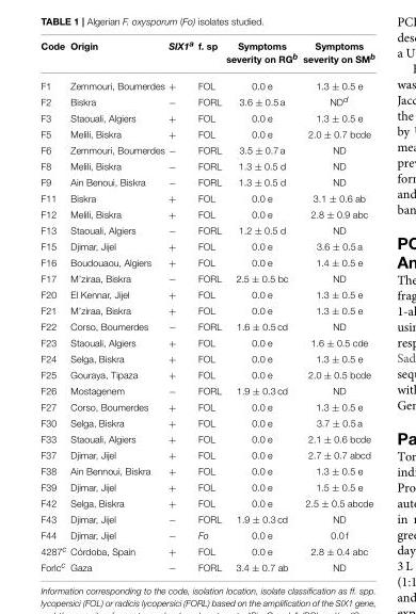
<table><thead><tr><td>Code</td><td>Origin</td><td>SIX1<sup>a</sup></td><td>f. sp</td><td>Symptoms severity on RG<sup>b</sup></td><td>Symptoms severity on SM<sup>b</sup></td></tr></thead><tbody><tr><td>F1</td><td>Zemmouri, Boumerdes</td><td>+</td><td>FOL</td><td>0.0 e</td><td>1.3 ± 0.5 e</td></tr><tr><td>F2</td><td>Biskra</td><td>−</td><td>FORL</td><td>3.6 ± 0.5 a</td><td>ND<sup>d</sup></td></tr><tr><td>F3</td><td>Staouali, Algiers</td><td>+</td><td>FOL</td><td>0.0 e</td><td>1.3 ± 0.5 e</td></tr><tr><td>F5</td><td>Melili, Biskra</td><td>+</td><td>FOL</td><td>0.0 e</td><td>2.0 ± 0.7 bcde</td></tr><tr><td>F6</td><td>Zemmouri, Boumerdes</td><td>−</td><td>FORL</td><td>3.5 ± 0.7 a</td><td>ND</td></tr><tr><td>F8</td><td>Melili, Biskra</td><td>−</td><td>FORL</td><td>1.3 ± 0.5 d</td><td>ND</td></tr><tr><td>F9</td><td>Ain Benoui, Biskra</td><td>−</td><td>FORL</td><td>1.3 ± 0.5 d</td><td>ND</td></tr><tr><td>F11</td><td>Biskra</td><td>+</td><td>FOL</td><td>0.0 e</td><td>3.1 ± 0.6 ab</td></tr><tr><td>F12</td><td>Melili, Biskra</td><td>+</td><td>FOL</td><td>0.0 e</td><td>2.8 ± 0.9 abc</td></tr><tr><td>F13</td><td>Staouali, Algiers</td><td>−</td><td>FORL</td><td>1.2 ± 0.5 d</td><td>ND</td></tr><tr><td>F15</td><td>Djimar, Jijel</td><td>+</td><td>FOL</td><td>0.0 e</td><td>3.6 ± 0.5 a</td></tr><tr><td>F16</td><td>Boudouaou, Algiers</td><td>+</td><td>FOL</td><td>0.0 e</td><td>1.4 ± 0.5 e</td></tr><tr><td>F17</td><td>M’ziraa, Biskra</td><td>−</td><td>FORL</td><td>2.5 ± 0.5 bc</td><td>ND</td></tr><tr><td>F20</td><td>El Kennar, Jijel</td><td>+</td><td>FOL</td><td>0.0 e</td><td>1.3 ± 0.5 e</td></tr><tr><td>F21</td><td>M’ziraa, Biskra</td><td>+</td><td>FOL</td><td>0.0 e</td><td>1.3 ± 0.5 e</td></tr><tr><td>F22</td><td>Corso, Boumerdes</td><td>−</td><td>FORL</td><td>1.6 ± 0.5 cd</td><td>ND</td></tr><tr><td>F23</td><td>Staouali, Algiers</td><td>+</td><td>FOL</td><td>0.0 e</td><td>1.6 ± 0.5 cde</td></tr><tr><td>F24</td><td>Selga, Biskra</td><td>+</td><td>FOL</td><td>0.0 e</td><td>1.3 ± 0.5 e</td></tr><tr><td>F25</td><td>Gouraya, Tipaza</td><td>+</td><td>FOL</td><td>0.0 e</td><td>2.0 ± 0.5 bcde</td></tr><tr><td>F26</td><td>Mostagenem</td><td>−</td><td>FORL</td><td>1.9 ± 0.3 cd</td><td>ND</td></tr><tr><td>F27</td><td>Corso, Boumerdes</td><td>+</td><td>FOL</td><td>0.0 e</td><td>1.3 ± 0.5 e</td></tr><tr><td>F30</td><td>Selga, Biskra</td><td>+</td><td>FOL</td><td>0.0 e</td><td>3.7 ± 0.5 a</td></tr><tr><td>F33</td><td>Staouali, Algiers</td><td>+</td><td>FOL</td><td>0.0 e</td><td>2.1 ± 0.6 bcde</td></tr><tr><td>F37</td><td>Djimar, Jijel</td><td>+</td><td>FOL</td><td>0.0 e</td><td>2.7 ± 0.7 abcd</td></tr><tr><td>F38</td><td>Ain Bennoui, Biskra</td><td>+</td><td>FOL</td><td>0.0 e</td><td>1.3 ± 0.5 e</td></tr><tr><td>F39</td><td>Djimar, Jijel</td><td>+</td><td>FOL</td><td>0.0 e</td><td>1.5 ± 0.5 e</td></tr><tr><td>F42</td><td>Selga, Biskra</td><td>+</td><td>FOL</td><td>0.0 e</td><td>2.5 ± 0.5 abcde</td></tr><tr><td>F43</td><td>Djimar, Jijel</td><td>−</td><td>FORL</td><td>1.9 ± 0.3 cd</td><td>ND</td></tr><tr><td>F44</td><td>Djimar, Jijel</td><td>−</td><td>Fo</td><td>0.0 e</td><td>0.0 f</td></tr><tr><td>4287<sup>c</sup></td><td>Córdoba, Spain</td><td>+</td><td>FOL</td><td>0.0 e</td><td>2.8 ± 0.4 abc</td></tr><tr><td>Forlc<sup>c</sup></td><td>Gaza</td><td>−</td><td>FORL</td><td>3.4 ± 0.7 ab</td><td>ND</td></tr></tbody></table>